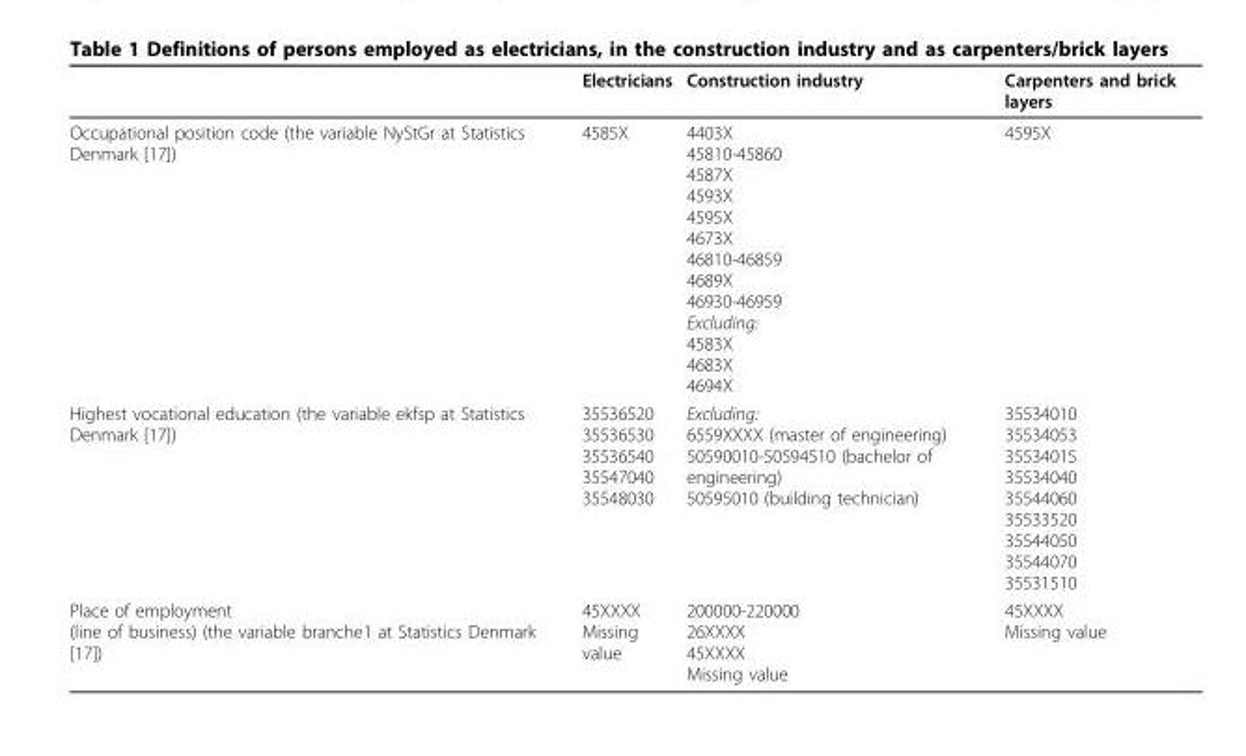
<table><thead><tr><td></td><td>Electricians</td><td>Construction industry</td><td>Carpenters and brick layers</td></tr></thead><tbody><tr><td>Occupational position code (the variable NyStGr at Statistics Denmark [17])</td><td>4585X</td><td>4403X 45810-45860 4587X 4593X 4595X 4673X 46810-46859 4689X 46930-46959 Excluding: 4583X 4683X 4694X</td><td>4595X</td></tr><tr><td>Highest vocational education (the variable ekfsp at Statistics Denmark [17])</td><td>35536520 35536530 35536540 35547040 35548030</td><td>Excluding: 6559XXXX (master of engineering) 50590010-50594510 (bachelor of engineering) 50595010 (building technician)</td><td>35534010 35534053 35534015 35534040 35544060 35533520 35544050 35544070 35531510</td></tr><tr><td>Place of employment (line of business) (the variable branche1 at Statistics Denmark [17])</td><td>45XXXX Missing value</td><td>200000-220000 26XXXX 45XXXX Missing value</td><td>45XXXX Missing value</td></tr></tbody></table>